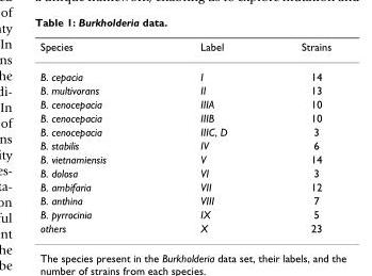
<table><thead><tr><td>Species</td><td>Label</td><td>Strains</td></tr></thead><tbody><tr><td>B. cepacia</td><td>I</td><td>14</td></tr><tr><td>B. multivorans</td><td>II</td><td>13</td></tr><tr><td>B. cenocepacia</td><td>IIIA</td><td>10</td></tr><tr><td>B. cenocepacia</td><td>IIIB</td><td>10</td></tr><tr><td>B. cenocepacia</td><td>IIIC, D</td><td>3</td></tr><tr><td>B. stabilis</td><td>IV</td><td>6</td></tr><tr><td>B. vietnamiensis</td><td>V</td><td>14</td></tr><tr><td>B. dolosa</td><td>VI</td><td>3</td></tr><tr><td>B. ambifaria</td><td>VII</td><td>12</td></tr><tr><td>B. anthina</td><td>VIII</td><td>7</td></tr><tr><td>B. pyrrocinia</td><td>IX</td><td>5</td></tr><tr><td>others</td><td>X</td><td>23</td></tr></tbody></table>